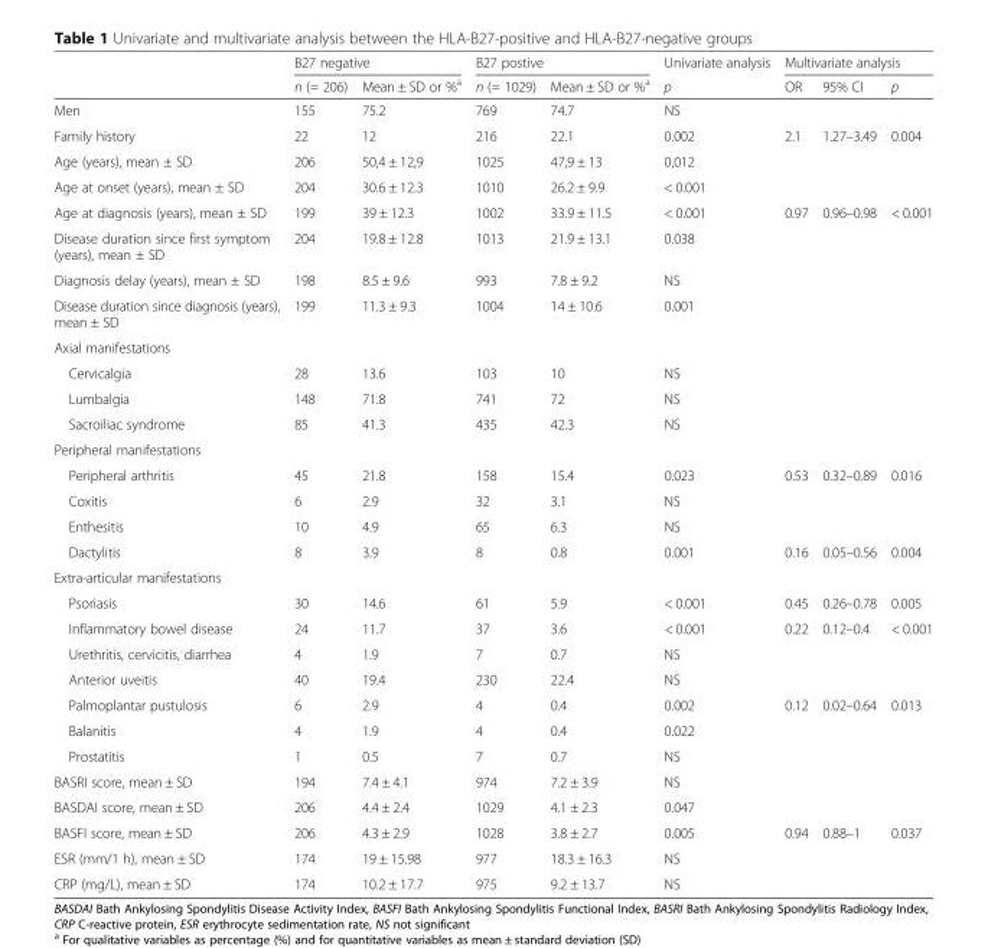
<table><thead><tr><td rowspan="2"></td><td colspan="2">B27 negative</td><td colspan="2">B27 postive</td><td rowspan="2">Univariate analysis p</td><td colspan="3">Multivariate analysis</td></tr><tr><td>n (= 206)</td><td>Mean ± SD or %<sup>a</sup></td><td>n (= 1029)</td><td>Mean ± SD or %<sup>a</sup></td><td>OR</td><td>95% CI</td><td>p</td></tr></thead><tbody><tr><td>Men</td><td>155</td><td>75.2</td><td>769</td><td>74.7</td><td>NS</td><td></td><td></td><td></td></tr><tr><td>Family history</td><td>22</td><td>12</td><td>216</td><td>22.1</td><td>0.002</td><td>2.1</td><td>1.27–3.49</td><td>0.004</td></tr><tr><td>Age (years), mean ± SD</td><td>206</td><td>50,4 ± 12,9</td><td>1025</td><td>47,9 ± 13</td><td>0,012</td><td></td><td></td><td></td></tr><tr><td>Age at onset (years), mean ± SD</td><td>204</td><td>30.6 ± 12.3</td><td>1010</td><td>26.2 ± 9.9</td><td>&lt; 0.001</td><td></td><td></td><td></td></tr><tr><td>Age at diagnosis (years), mean ± SD</td><td>199</td><td>39 ± 12.3</td><td>1002</td><td>33.9 ± 11.5</td><td>&lt; 0.001</td><td>0.97</td><td>0.96–0.98</td><td>&lt; 0.001</td></tr><tr><td>Disease duration since first symptom (years), mean ± SD</td><td>204</td><td>19.8 ± 12.8</td><td>1013</td><td>21.9 ± 13.1</td><td>0.038</td><td></td><td></td><td></td></tr><tr><td>Diagnosis delay (years), mean ± SD</td><td>198</td><td>8.5 ± 9.6</td><td>993</td><td>7.8 ± 9.2</td><td>NS</td><td></td><td></td><td></td></tr><tr><td>Disease duration since diagnosis (years), mean ± SD</td><td>199</td><td>11.3 ± 9.3</td><td>1004</td><td>14 ± 10.6</td><td>0.001</td><td></td><td></td><td></td></tr><tr><td colspan="9">Axial manifestations</td></tr><tr><td>Cervicalgia</td><td>28</td><td>13.6</td><td>103</td><td>10</td><td>NS</td><td></td><td></td><td></td></tr><tr><td>Lumbalgia</td><td>148</td><td>71.8</td><td>741</td><td>72</td><td>NS</td><td></td><td></td><td></td></tr><tr><td>Sacroiliac syndrome</td><td>85</td><td>41.3</td><td>435</td><td>42.3</td><td>NS</td><td></td><td></td><td></td></tr><tr><td colspan="9">Peripheral manifestations</td></tr><tr><td>Peripheral arthritis</td><td>45</td><td>21.8</td><td>158</td><td>15.4</td><td>0.023</td><td>0.53</td><td>0.32–0.89</td><td>0.016</td></tr><tr><td>Coxitis</td><td>6</td><td>2.9</td><td>32</td><td>3.1</td><td>NS</td><td></td><td></td><td></td></tr><tr><td>Enthesitis</td><td>10</td><td>4.9</td><td>65</td><td>6.3</td><td>NS</td><td></td><td></td><td></td></tr><tr><td>Dactylitis</td><td>8</td><td>3.9</td><td>8</td><td>0.8</td><td>0.001</td><td>0.16</td><td>0.05–0.56</td><td>0.004</td></tr><tr><td colspan="9">Extra-articular manifestations</td></tr><tr><td>Psoriasis</td><td>30</td><td>14.6</td><td>61</td><td>5.9</td><td>&lt; 0.001</td><td>0.45</td><td>0.26–0.78</td><td>0.005</td></tr><tr><td>Inflammatory bowel disease</td><td>24</td><td>11.7</td><td>37</td><td>3.6</td><td>&lt; 0.001</td><td>0.22</td><td>0.12–0.4</td><td>&lt; 0.001</td></tr><tr><td>Urethritis, cervicitis, diarrhea</td><td>4</td><td>1.9</td><td>7</td><td>0.7</td><td>NS</td><td></td><td></td><td></td></tr><tr><td>Anterior uveitis</td><td>40</td><td>19.4</td><td>230</td><td>22.4</td><td>NS</td><td></td><td></td><td></td></tr><tr><td>Palmoplantar pustulosis</td><td>6</td><td>2.9</td><td>4</td><td>0.4</td><td>0.002</td><td>0.12</td><td>0.02–0.64</td><td>0.013</td></tr><tr><td>Balanitis</td><td>4</td><td>1.9</td><td>4</td><td>0.4</td><td>0.022</td><td></td><td></td><td></td></tr><tr><td>Prostatitis</td><td>1</td><td>0.5</td><td>7</td><td>0.7</td><td>NS</td><td></td><td></td><td></td></tr><tr><td>BASRI score, mean ± SD</td><td>194</td><td>7.4 ± 4.1</td><td>974</td><td>7.2 ± 3.9</td><td>NS</td><td></td><td></td><td></td></tr><tr><td>BASDAI score, mean ± SD</td><td>206</td><td>4.4 ± 2.4</td><td>1029</td><td>4.1 ± 2.3</td><td>0.047</td><td></td><td></td><td></td></tr><tr><td>BASFI score, mean ± SD</td><td>206</td><td>4.3 ± 2.9</td><td>1028</td><td>3.8 ± 2.7</td><td>0.005</td><td>0.94</td><td>0.88–1</td><td>0.037</td></tr><tr><td>ESR (mm/1 h), mean ± SD</td><td>174</td><td>19 ± 15.98</td><td>977</td><td>18.3 ± 16.3</td><td>NS</td><td></td><td></td><td></td></tr><tr><td>CRP (mg/L), mean ± SD</td><td>174</td><td>10.2 ± 17.7</td><td>975</td><td>9.2 ± 13.7</td><td>NS</td><td></td><td></td><td></td></tr></tbody></table>